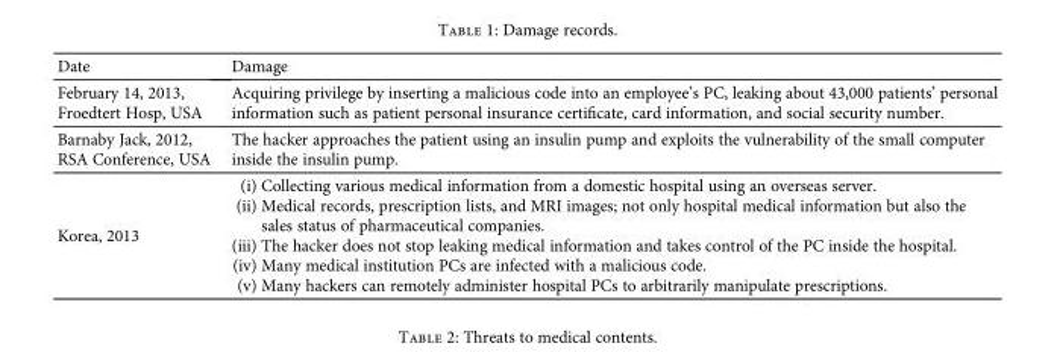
<table><thead><tr><td>Date</td><td>Damage</td></tr></thead><tbody><tr><td>February 14, 2013, Froedtert Hosp, USA</td><td>Acquiring privilege by inserting a malicious code into an employee’s PC, leaking about 43,000 patients’ personal information such as patient personal insurance certificate, card information, and social security number.</td></tr><tr><td>Barnaby Jack, 2012, RSA Conference, USA</td><td>The hacker approaches the patient using an insulin pump and exploits the vulnerability of the small computer inside the insulin pump.</td></tr><tr><td>Korea, 2013</td><td>(i) Collecting various medical information from a domestic hospital using an overseas server. (ii) Medical records, prescription lists, and MRI images; not only hospital medical information but also the sales status of pharmaceutical companies. (iii) The hacker does not stop leaking medical information and takes control of the PC inside the hospital. (iv) Many medical institution PCs are infected with a malicious code. (v) Many hackers can remotely administer hospital PCs to arbitrarily manipulate prescriptions.</td></tr></tbody></table>